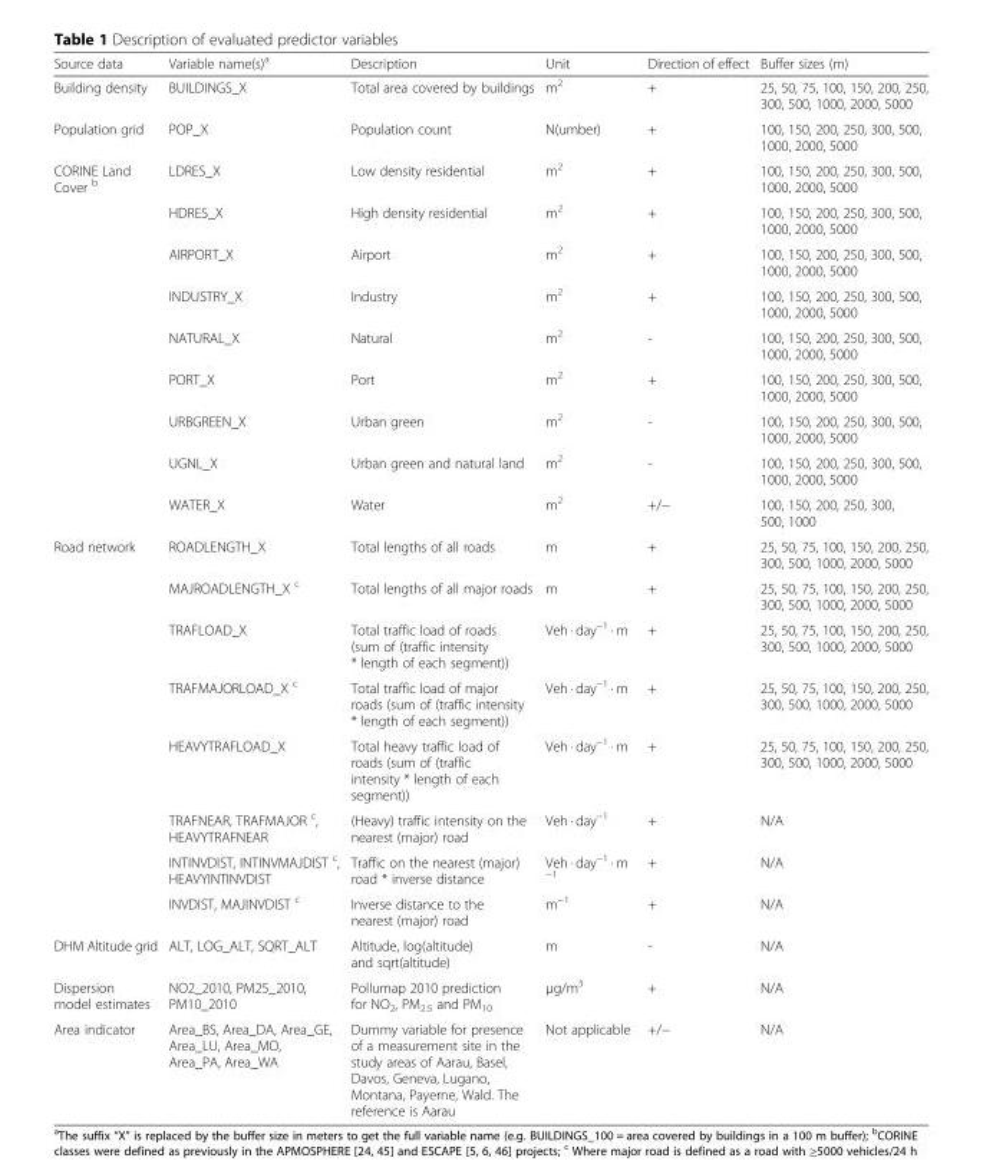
<table><thead><tr><td>Source data</td><td>Variable name(s)<sup>a</sup></td><td>Description</td><td>Unit</td><td>Direction of effect</td><td>Buffer sizes (m)</td></tr></thead><tbody><tr><td>Building density</td><td>BUILDINGS_X</td><td>Total area covered by buildings</td><td>m<sup>2</sup></td><td>+</td><td>25, 50, 75, 100, 150, 200, 250, 300, 500, 1000, 2000, 5000</td></tr><tr><td>Population grid</td><td>POP_X</td><td>Population count</td><td>N(umber)</td><td>+</td><td>100, 150, 200, 250, 300, 500, 1000, 2000, 5000</td></tr><tr><td rowspan="9">CORINE Land Cover <sup>b</sup></td><td>LDRES_X</td><td>Low density residential</td><td>m<sup>2</sup></td><td>+</td><td>100, 150, 200, 250, 300, 500, 1000, 2000, 5000</td></tr><tr><td>HDRES_X</td><td>High density residential</td><td>m<sup>2</sup></td><td>+</td><td>100, 150, 200, 250, 300, 500, 1000, 2000, 5000</td></tr><tr><td>AIRPORT_X</td><td>Airport</td><td>m<sup>2</sup></td><td>+</td><td>100, 150, 200, 250, 300, 500, 1000, 2000, 5000</td></tr><tr><td>INDUSTRY_X</td><td>Industry</td><td>m<sup>2</sup></td><td>+</td><td>100, 150, 200, 250, 300, 500, 1000, 2000, 5000</td></tr><tr><td>NATURAL_X</td><td>Natural</td><td>m<sup>2</sup></td><td>-</td><td>100, 150, 200, 250, 300, 500, 1000, 2000, 5000</td></tr><tr><td>PORT_X</td><td>Port</td><td>m<sup>2</sup></td><td>+</td><td>100, 150, 200, 250, 300, 500, 1000, 2000, 5000</td></tr><tr><td>URBGREEN_X</td><td>Urban green</td><td>m<sup>2</sup></td><td>-</td><td>100, 150, 200, 250, 300, 500, 1000, 2000, 5000</td></tr><tr><td>UGNL_X</td><td>Urban green and natural land</td><td>m<sup>2</sup></td><td>-</td><td>100, 150, 200, 250, 300, 500, 1000, 2000, 5000</td></tr><tr><td>WATER_X</td><td>Water</td><td>m<sup>2</sup></td><td>+/−</td><td>100, 150, 200, 250, 300, 500, 1000</td></tr><tr><td rowspan="8">Road network</td><td>ROADLENGTH_X</td><td>Total lengths of all roads</td><td>m</td><td>+</td><td>25, 50, 75, 100, 150, 200, 250, 300, 500, 1000, 2000, 5000</td></tr><tr><td>MAJROADLENGTH_X <sup>c</sup></td><td>Total lengths of all major roads</td><td>m</td><td>+</td><td>25, 50, 75, 100, 150, 200, 250, 300, 500, 1000, 2000, 5000</td></tr><tr><td>TRAFLOAD_X</td><td>Total traffic load of roads (sum of (traffic intensity * length of each segment))</td><td>Veh · day<sup>−1</sup> · m</td><td>+</td><td>25, 50, 75, 100, 150, 200, 250, 300, 500, 1000, 2000, 5000</td></tr><tr><td>TRAFMAJORLOAD_X <sup>c</sup></td><td>Total traffic load of major roads (sum of (traffic intensity * length of each segment))</td><td>Veh · day<sup>−1</sup> · m</td><td>+</td><td>25, 50, 75, 100, 150, 200, 250, 300, 500, 1000, 2000, 5000</td></tr><tr><td>HEAVYTRAFLOAD_X</td><td>Total heavy traffic load of roads (sum of (traffic intensity * length of each segment))</td><td>Veh · day<sup>−1</sup> · m</td><td>+</td><td>25, 50, 75, 100, 150, 200, 250, 300, 500, 1000, 2000, 5000</td></tr><tr><td>TRAFNEAR, TRAFMAJOR <sup>c</sup>, HEAVYTRAFNEAR</td><td>(Heavy) traffic intensity on the nearest (major) road</td><td>Veh · day<sup>−1</sup></td><td>+</td><td>N/A</td></tr><tr><td>INTINVDIST, INTINVMAJDIST <sup>c</sup>, HEAVYINTINVDIST</td><td>Traffic on the nearest (major) road * inverse distance</td><td>Veh · day<sup>−1</sup> · m <sup>−1</sup></td><td>+</td><td>N/A</td></tr><tr><td>INVDIST, MAJINVDIST <sup>c</sup></td><td>Inverse distance to the nearest (major) road</td><td>m<sup>−1</sup></td><td>+</td><td>N/A</td></tr><tr><td>DHM Altitude grid</td><td>ALT, LOG_ALT, SQRT_ALT</td><td>Altitude, log(altitude) and sqrt(altitude)</td><td>m</td><td>-</td><td>N/A</td></tr><tr><td>Dispersion model estimates</td><td>NO2_2010, PM25_2010, PM10_2010</td><td>Pollumap 2010 prediction for NO<sub>2</sub>, PM<sub>2.5</sub> and PM<sub>10</sub></td><td>μg/m<sup>3</sup></td><td>+</td><td>N/A</td></tr><tr><td>Area indicator</td><td>Area_BS, Area_DA, Area_GE, Area_LU, Area_MO, Area_PA, Area_WA</td><td>Dummy variable for presence of a measurement site in the study areas of Aarau, Basel, Davos, Geneva, Lugano, Montana, Payerne, Wald. The reference is Aarau</td><td>Not applicable</td><td>+/−</td><td>N/A</td></tr></tbody></table>